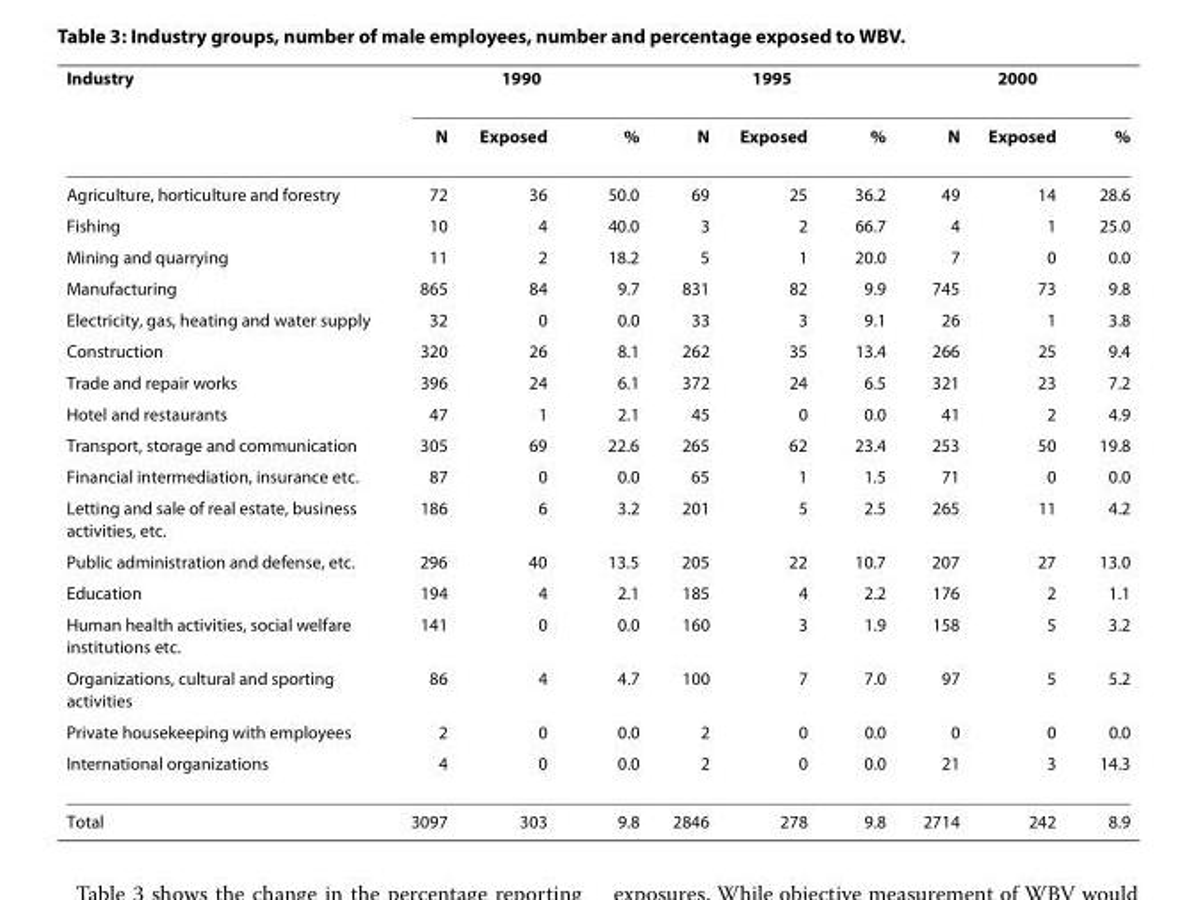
<table><thead><tr><td rowspan="2">Industry</td><td colspan="3">1990</td><td colspan="3">1995</td><td colspan="3">2000</td></tr><tr><td>N</td><td>Exposed</td><td>%</td><td>N</td><td>Exposed</td><td>%</td><td>N</td><td>Exposed</td><td>%</td></tr></thead><tbody><tr><td>Agriculture, horticulture and forestry</td><td>72</td><td>36</td><td>50.0</td><td>69</td><td>25</td><td>36.2</td><td>49</td><td>14</td><td>28.6</td></tr><tr><td>Fishing</td><td>10</td><td>4</td><td>40.0</td><td>3</td><td>2</td><td>66.7</td><td>4</td><td>1</td><td>25.0</td></tr><tr><td>Mining and quarrying</td><td>11</td><td>2</td><td>18.2</td><td>5</td><td>1</td><td>20.0</td><td>7</td><td>0</td><td>0.0</td></tr><tr><td>Manufacturing</td><td>865</td><td>84</td><td>9.7</td><td>831</td><td>82</td><td>9.9</td><td>745</td><td>73</td><td>9.8</td></tr><tr><td>Electricity, gas, heating and water supply</td><td>32</td><td>0</td><td>0.0</td><td>33</td><td>3</td><td>9.1</td><td>26</td><td>1</td><td>3.8</td></tr><tr><td>Construction</td><td>320</td><td>26</td><td>8.1</td><td>262</td><td>35</td><td>13.4</td><td>266</td><td>25</td><td>9.4</td></tr><tr><td>Trade and repair works</td><td>396</td><td>24</td><td>6.1</td><td>372</td><td>24</td><td>6.5</td><td>321</td><td>23</td><td>7.2</td></tr><tr><td>Hotel and restaurants</td><td>47</td><td>1</td><td>2.1</td><td>45</td><td>0</td><td>0.0</td><td>41</td><td>2</td><td>4.9</td></tr><tr><td>Transport, storage and communication</td><td>305</td><td>69</td><td>22.6</td><td>265</td><td>62</td><td>23.4</td><td>253</td><td>50</td><td>19.8</td></tr><tr><td>Financial intermediation, insurance etc.</td><td>87</td><td>0</td><td>0.0</td><td>65</td><td>1</td><td>1.5</td><td>71</td><td>0</td><td>0.0</td></tr><tr><td>Letting and sale of real estate, business activities, etc.</td><td>186</td><td>6</td><td>3.2</td><td>201</td><td>5</td><td>2.5</td><td>265</td><td>11</td><td>4.2</td></tr><tr><td>Public administration and defense, etc.</td><td>296</td><td>40</td><td>13.5</td><td>205</td><td>22</td><td>10.7</td><td>207</td><td>27</td><td>13.0</td></tr><tr><td>Education</td><td>194</td><td>4</td><td>2.1</td><td>185</td><td>4</td><td>2.2</td><td>176</td><td>2</td><td>1.1</td></tr><tr><td>Human health activities, social welfare institutions etc.</td><td>141</td><td>0</td><td>0.0</td><td>160</td><td>3</td><td>1.9</td><td>158</td><td>5</td><td>3.2</td></tr><tr><td>Organizations, cultural and sporting activities</td><td>86</td><td>4</td><td>4.7</td><td>100</td><td>7</td><td>7.0</td><td>97</td><td>5</td><td>5.2</td></tr><tr><td>Private housekeeping with employees</td><td>2</td><td>0</td><td>0.0</td><td>2</td><td>0</td><td>0.0</td><td>0</td><td>0</td><td>0.0</td></tr><tr><td>International organizations</td><td>4</td><td>0</td><td>0.0</td><td>2</td><td>0</td><td>0.0</td><td>21</td><td>3</td><td>14.3</td></tr><tr><td>Total</td><td>3097</td><td>303</td><td>9.8</td><td>2846</td><td>278</td><td>9.8</td><td>2714</td><td>242</td><td>8.9</td></tr></tbody></table>